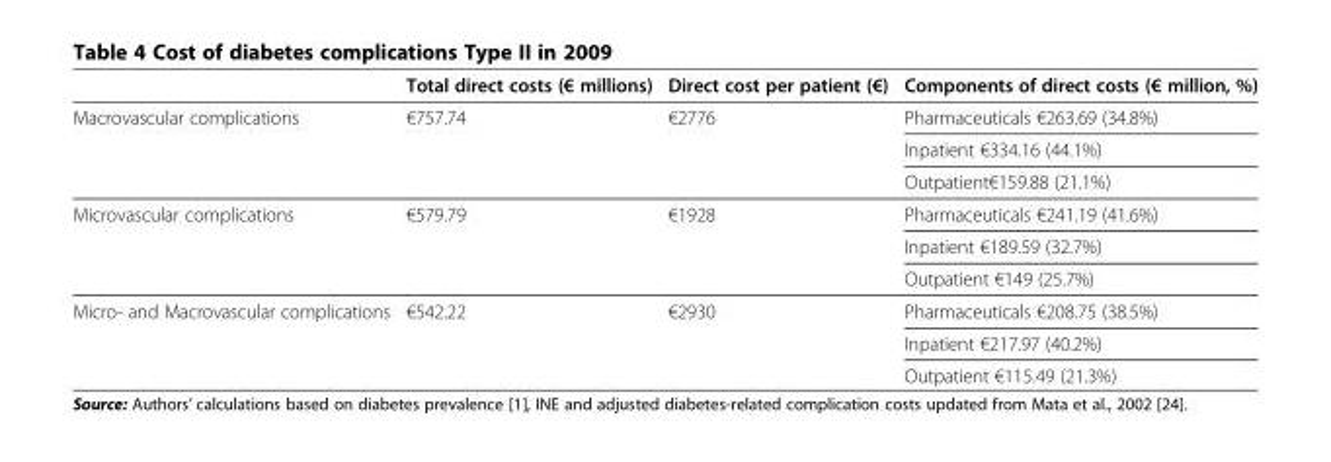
<table><thead><tr><td></td><td>Total direct costs (€ millions)</td><td>Direct cost per patient (€)</td><td>Components of direct costs (€ million, %)</td></tr></thead><tbody><tr><td rowspan="3">Macrovascular complications</td><td rowspan="3">€757.74</td><td rowspan="3">€2776</td><td>Pharmaceuticals €263.69 (34.8%)</td></tr><tr><td>Inpatient €334.16 (44.1%)</td></tr><tr><td>Outpatient€159.88 (21.1%)</td></tr><tr><td rowspan="3">Microvascular complications</td><td rowspan="3">€579.79</td><td rowspan="3">€1928</td><td>Pharmaceuticals €241.19 (41.6%)</td></tr><tr><td>Inpatient €189.59 (32.7%)</td></tr><tr><td>Outpatient €149 (25.7%)</td></tr><tr><td rowspan="3">Micro- and Macrovascular complications</td><td rowspan="3">€542.22</td><td rowspan="3">€2930</td><td>Pharmaceuticals €208.75 (38.5%)</td></tr><tr><td>Inpatient €217.97 (40.2%)</td></tr><tr><td>Outpatient €115.49 (21.3%)</td></tr></tbody></table>